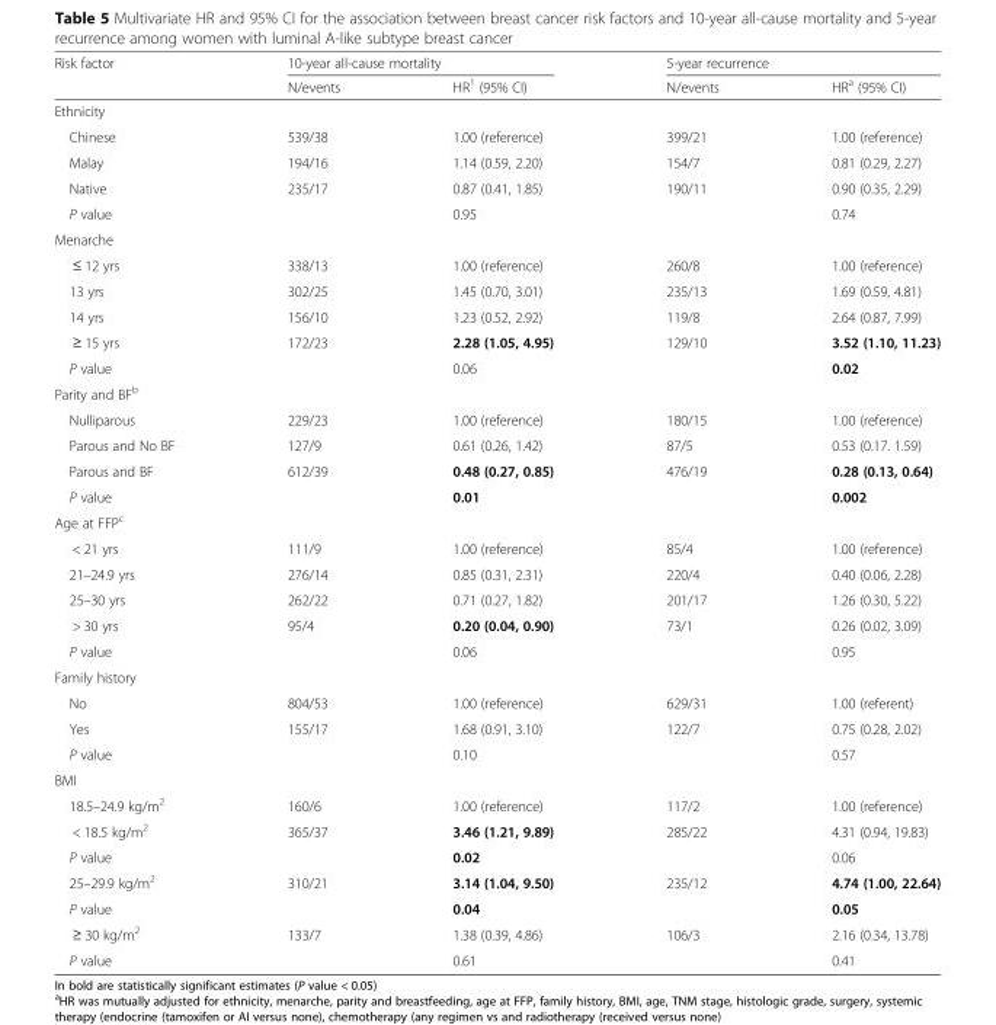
<table><thead><tr><td rowspan="2">Risk factor</td><td colspan="2">10-year all-cause mortality</td><td colspan="2">5-year recurrence</td></tr><tr><td>N/events</td><td>HR<sup>1</sup> (95% CI)</td><td>N/events</td><td>HR<sup>a</sup> (95% CI)</td></tr></thead><tbody><tr><td colspan="5">Ethnicity</td></tr><tr><td>Chinese</td><td>539/38</td><td>1.00 (reference)</td><td>399/21</td><td>1.00 (reference)</td></tr><tr><td>Malay</td><td>194/16</td><td>1.14 (0.59, 2.20)</td><td>154/7</td><td>0.81 (0.29, 2.27)</td></tr><tr><td>Native</td><td>235/17</td><td>0.87 (0.41, 1.85)</td><td>190/11</td><td>0.90 (0.35, 2.29)</td></tr><tr><td>P value</td><td></td><td>0.95</td><td></td><td>0.74</td></tr><tr><td colspan="5">Menarche</td></tr><tr><td>≤ 12 yrs</td><td>338/13</td><td>1.00 (reference)</td><td>260/8</td><td>1.00 (reference)</td></tr><tr><td>13 yrs</td><td>302/25</td><td>1.45 (0.70, 3.01)</td><td>235/13</td><td>1.69 (0.59, 4.81)</td></tr><tr><td>14 yrs</td><td>156/10</td><td>1.23 (0.52, 2.92)</td><td>119/8</td><td>2.64 (0.87, 7.99)</td></tr><tr><td>≥ 15 yrs</td><td>172/23</td><td>2.28 (1.05, 4.95)</td><td>129/10</td><td>3.52 (1.10, 11.23)</td></tr><tr><td>P value</td><td></td><td>0.06</td><td></td><td>0.02</td></tr><tr><td colspan="5">Parity and BF<sup>b</sup></td></tr><tr><td>Nulliparous</td><td>229/23</td><td>1.00 (reference)</td><td>180/15</td><td>1.00 (reference)</td></tr><tr><td>Parous and No BF</td><td>127/9</td><td>0.61 (0.26, 1.42)</td><td>87/5</td><td>0.53 (0.17. 1.59)</td></tr><tr><td>Parous and BF</td><td>612/39</td><td>0.48 (0.27, 0.85)</td><td>476/19</td><td>0.28 (0.13, 0.64)</td></tr><tr><td>P value</td><td></td><td>0.01</td><td></td><td>0.002</td></tr><tr><td colspan="5">Age at FFP<sup>c</sup></td></tr><tr><td>&lt; 21 yrs</td><td>111/9</td><td>1.00 (reference)</td><td>85/4</td><td>1.00 (reference)</td></tr><tr><td>21–24.9 yrs</td><td>276/14</td><td>0.85 (0.31, 2.31)</td><td>220/4</td><td>0.40 (0.06, 2.28)</td></tr><tr><td>25–30 yrs</td><td>262/22</td><td>0.71 (0.27, 1.82)</td><td>201/17</td><td>1.26 (0.30, 5.22)</td></tr><tr><td>&gt; 30 yrs</td><td>95/4</td><td>0.20 (0.04, 0.90)</td><td>73/1</td><td>0.26 (0.02, 3.09)</td></tr><tr><td>P value</td><td></td><td>0.06</td><td></td><td>0.95</td></tr><tr><td colspan="5">Family history</td></tr><tr><td>No</td><td>804/53</td><td>1.00 (reference)</td><td>629/31</td><td>1.00 (referent)</td></tr><tr><td>Yes</td><td>155/17</td><td>1.68 (0.91, 3.10)</td><td>122/7</td><td>0.75 (0.28, 2.02)</td></tr><tr><td>P value</td><td></td><td>0.10</td><td></td><td>0.57</td></tr><tr><td colspan="5">BMI</td></tr><tr><td>18.5–24.9 kg/m<sup>2</sup></td><td>160/6</td><td>1.00 (reference)</td><td>117/2</td><td>1.00 (reference)</td></tr><tr><td>&lt; 18.5 kg/m<sup>2</sup></td><td>365/37</td><td>3.46 (1.21, 9.89)</td><td>285/22</td><td>4.31 (0.94, 19.83)</td></tr><tr><td>P value</td><td></td><td>0.02</td><td></td><td>0.06</td></tr><tr><td>25–29.9 kg/m<sup>2</sup></td><td>310/21</td><td>3.14 (1.04, 9.50)</td><td>235/12</td><td>4.74 (1.00, 22.64)</td></tr><tr><td>P value</td><td></td><td>0.04</td><td></td><td>0.05</td></tr><tr><td>≥ 30 kg/m<sup>2</sup></td><td>133/7</td><td>1.38 (0.39, 4.86)</td><td>106/3</td><td>2.16 (0.34, 13.78)</td></tr><tr><td>P value</td><td></td><td>0.61</td><td></td><td>0.41</td></tr></tbody></table>